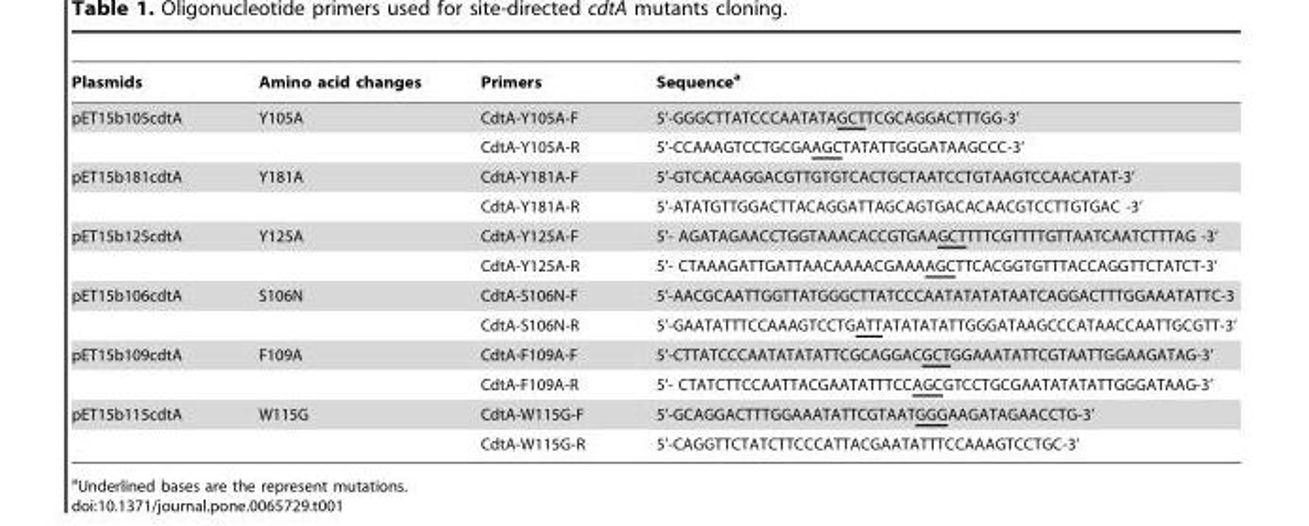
<table><thead><tr><td>Plasmids</td><td>Amino acid changes</td><td>Primers</td><td>Sequence<sup>a</sup></td></tr></thead><tbody><tr><td rowspan="2">pET15b105cdtA</td><td>Y105A</td><td>CdtA-Y105A-F</td><td>5’-GGGCTTATCCCAATATAGCTTCGCAGGACTTTGG-3’</td></tr><tr><td></td><td>CdtA-Y105A-R</td><td>5’-CCAAAGTCCTGCGAAGCTATATTGGGATAAGCCC-3’</td></tr><tr><td rowspan="2">pET15b181cdtA</td><td>Y181A</td><td>CdtA-Y181A-F</td><td>5’-GTCACAAGGACGTTGTGTCACTGCTAATCCTGTAAGTCCAACATAT-3’</td></tr><tr><td></td><td>CdtA-Y181A-R</td><td>5’-ATATGTTGGACTTACAGGATTAGCAGTGACACAACGTCCTTGTGAC -3’</td></tr><tr><td rowspan="2">pET15b125cdtA</td><td>Y125A</td><td>CdtA-Y125A-F</td><td>5’- AGATAGAACCTGGTAAACACCGTGAAGCTTTTCGTTTTGTTAATCAATCTTTAG -3’</td></tr><tr><td></td><td>CdtA-Y125A-R</td><td>5’- CTAAAGATTGATTAACAAAACGAAAAGCTTCACGGTGTTTACCAGGTTCTATCT-3’</td></tr><tr><td rowspan="2">pET15b106cdtA</td><td>S106N</td><td>CdtA-S106N-F</td><td>5’-AACGCAATTGGTTATGGGCTTATCCCAATATATATAATCAGGACTTTGGAAATATTC-3</td></tr><tr><td></td><td>CdtA-S106N-R</td><td>5’-GAATATTTCCAAAGTCCTGATTATATATATTGGGATAAGCCCATAACCAATTGCGTT-3’</td></tr><tr><td rowspan="2">pET15b109cdtA</td><td>F109A</td><td>CdtA-F109A-F</td><td>5’-CTTATCCCAATATATATTCGCAGGACGCTGGAAATATTCGTAATTGGAAGATAG-3’</td></tr><tr><td></td><td>CdtA-F109A-R</td><td>5’- CTATCTTCCAATTACGAATATTTCCAGCGTCCTGCGAATATATATTGGGATAAG-3’</td></tr><tr><td rowspan="2">pET15b115cdtA</td><td>W115G</td><td>CdtA-W115G-F</td><td>5’-GCAGGACTTTGGAAATATTCGTAATGGGAAGATAGAACCTG-3’</td></tr><tr><td></td><td>CdtA-W115G-R</td><td>5’-CAGGTTCTATCTTCCCATTACGAATATTTCCAAAGTCCTGC-3’</td></tr></tbody></table>